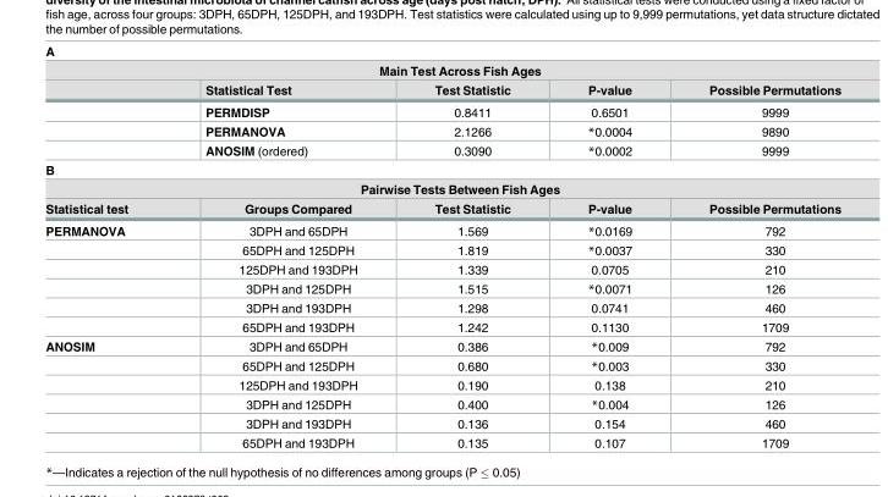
<table><tbody><tr><td colspan="5">A</td></tr><tr><td colspan="5">Main Test Across Fish Ages</td></tr><tr><td></td><td>Statistical Test</td><td>Test Statistic</td><td>P-value</td><td>Possible Permutations</td></tr><tr><td></td><td>PERMDISP</td><td>0.8411</td><td>0.6501</td><td>9999</td></tr><tr><td></td><td>PERMANOVA</td><td>2.1266</td><td>*0.0004</td><td>9890</td></tr><tr><td></td><td>ANOSIM (ordered)</td><td>0.3090</td><td>*0.0002</td><td>9999</td></tr><tr><td colspan="5">B</td></tr><tr><td colspan="5">Pairwise Tests Between Fish Ages</td></tr><tr><td>Statistical test</td><td>Groups Compared</td><td>Test Statistic</td><td>P-value</td><td>Possible Permutations</td></tr><tr><td rowspan="6">PERMANOVA</td><td>3DPH and 65DPH</td><td>1.569</td><td>*0.0169</td><td>792</td></tr><tr><td>65DPH and 125DPH</td><td>1.819</td><td>*0.0037</td><td>330</td></tr><tr><td>125DPH and 193DPH</td><td>1.339</td><td>0.0705</td><td>210</td></tr><tr><td>3DPH and 125DPH</td><td>1.515</td><td>*0.0071</td><td>126</td></tr><tr><td>3DPH and 193DPH</td><td>1.298</td><td>0.0741</td><td>460</td></tr><tr><td>65DPH and 193DPH</td><td>1.242</td><td>0.1130</td><td>1709</td></tr><tr><td rowspan="6">ANOSIM</td><td>3DPH and 65DPH</td><td>0.386</td><td>*0.009</td><td>792</td></tr><tr><td>65DPH and 125DPH</td><td>0.680</td><td>*0.003</td><td>330</td></tr><tr><td>125DPH and 193DPH</td><td>0.190</td><td>0.138</td><td>210</td></tr><tr><td>3DPH and 125DPH</td><td>0.400</td><td>*0.004</td><td>126</td></tr><tr><td>3DPH and 193DPH</td><td>0.136</td><td>0.154</td><td>460</td></tr><tr><td>65DPH and 193DPH</td><td>0.135</td><td>0.107</td><td>1709</td></tr></tbody></table>